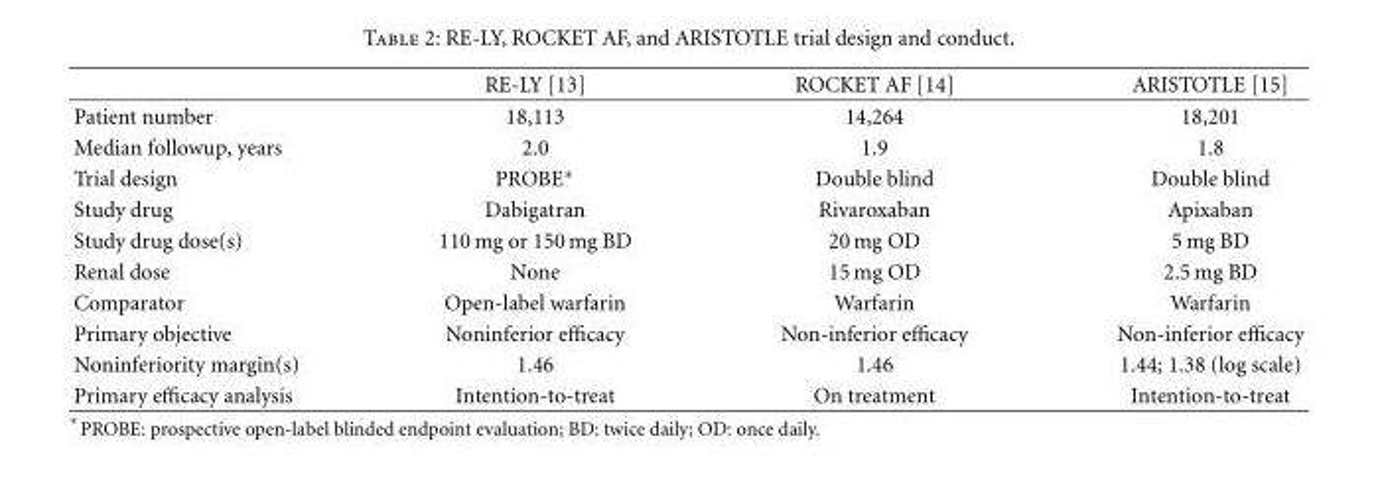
<table><thead><tr><td></td><td>RE-LY [13]</td><td>ROCKET AF [14]</td><td>ARISTOTLE [15]</td></tr></thead><tbody><tr><td>Patient number</td><td>18,113</td><td>14,264</td><td>18,201</td></tr><tr><td>Median followup, years</td><td>2.0</td><td>1.9</td><td>1.8</td></tr><tr><td>Trial design</td><td>PROBE∗</td><td>Double blind</td><td>Double blind</td></tr><tr><td>Study drug</td><td>Dabigatran</td><td>Rivaroxaban</td><td>Apixaban</td></tr><tr><td>Study drug dose(s)</td><td>110 mg or 150 mg BD</td><td>20 mg OD</td><td>5 mg BD</td></tr><tr><td>Renal dose</td><td>None</td><td>15 mg OD</td><td>2.5 mg BD</td></tr><tr><td>Comparator</td><td>Open-label warfarin</td><td>Warfarin</td><td>Warfarin</td></tr><tr><td>Primary objective</td><td>Noninferior efficacy</td><td>Non-inferior efficacy</td><td>Non-inferior efficacy</td></tr><tr><td>Noninferiority margin(s)</td><td>1.46</td><td>1.46</td><td>1.44; 1.38 (log scale)</td></tr><tr><td>Primary efficacy analysis</td><td>Intention-to-treat</td><td>On treatment</td><td>Intention-to-treat</td></tr></tbody></table>